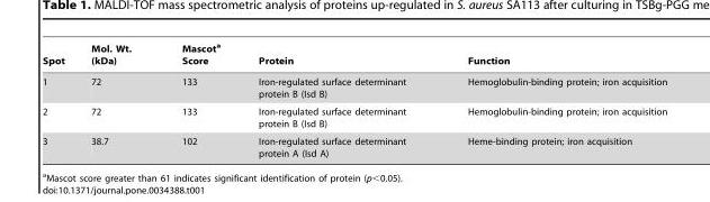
<table><thead><tr><td>Spot</td><td>Mol. Wt. (kDa)</td><td>Mascot<sup>a</sup> Score</td><td>Protein</td><td>Function</td></tr></thead><tbody><tr><td>1</td><td>72</td><td>133</td><td>Iron-regulated surface determinant protein B (Isd B)</td><td>Hemoglobulin-binding protein; iron acquisition</td></tr><tr><td>2</td><td>72</td><td>133</td><td>Iron-regulated surface determinant protein B (Isd B)</td><td>Hemoglobulin-binding protein; iron acquisition</td></tr><tr><td>3</td><td>38.7</td><td>102</td><td>Iron-regulated surface determinant protein A (Isd A)</td><td>Heme-binding protein; iron acquisition</td></tr></tbody></table>